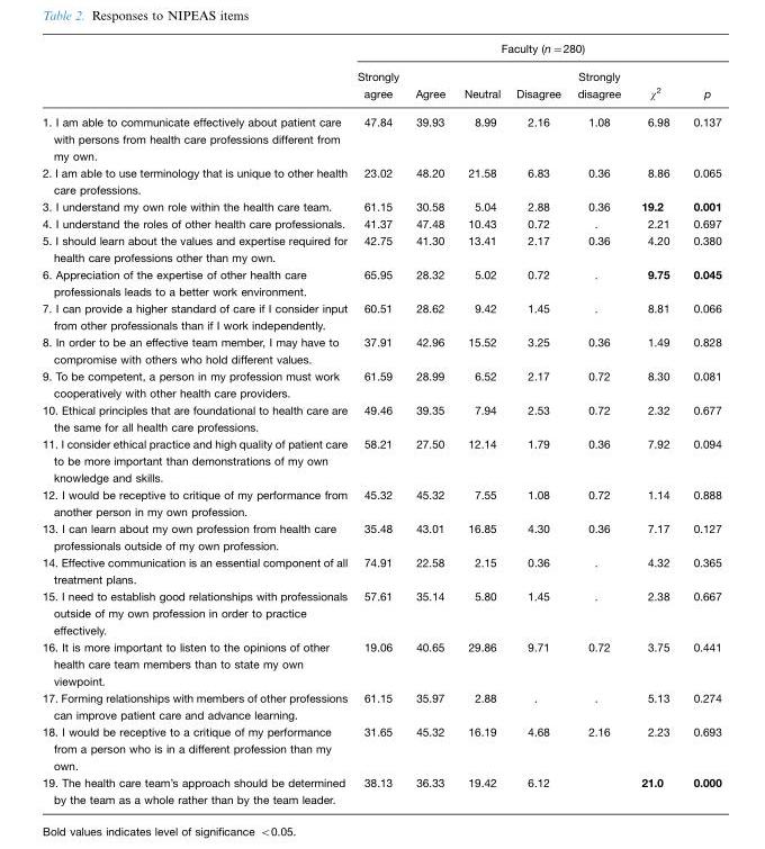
<table><thead><tr><td rowspan="2"></td><td colspan="7">Faculty (n=280)</td></tr><tr><td>Strongly agree</td><td>Agree</td><td>Neutral</td><td>Disagree</td><td>Strongly disagree</td><td>χ<sup>2</sup></td><td>p</td></tr></thead><tbody><tr><td>1. I am able to communicate effectively about patient care with persons from health care professions different from my own.</td><td>47.84</td><td>39.93</td><td>8.99</td><td>2.16</td><td>1.08</td><td>6.98</td><td>0.137</td></tr><tr><td>2. I am able to use terminology that is unique to other health care professions.</td><td>23.02</td><td>48.20</td><td>21.58</td><td>6.83</td><td>0.36</td><td>8.86</td><td>0.065</td></tr><tr><td>3. I understand my own role within the health care team.</td><td>61.15</td><td>30.58</td><td>5.04</td><td>2.88</td><td>0.36</td><td>19.2</td><td>0.001</td></tr><tr><td>4. I understand the roles of other health care professionals.</td><td>41.37</td><td>47.48</td><td>10.43</td><td>0.72</td><td>.</td><td>2.21</td><td>0.697</td></tr><tr><td>5. I should learn about the values and expertise required for health care professions other than my own.</td><td>42.75</td><td>41.30</td><td>13.41</td><td>2.17</td><td>0.36</td><td>4.20</td><td>0.380</td></tr><tr><td>6. Appreciation of the expertise of other health care professionals leads to a better work environment.</td><td>65.95</td><td>28.32</td><td>5.02</td><td>0.72</td><td>.</td><td>9.75</td><td>0.045</td></tr><tr><td>7. I can provide a higher standard of care if I consider input from other professionals than if I work independently.</td><td>60.51</td><td>28.62</td><td>9.42</td><td>1.45</td><td>.</td><td>8.81</td><td>0.066</td></tr><tr><td>8. In order to be an effective team member, I may have to compromise with others who hold different values.</td><td>37.91</td><td>42.96</td><td>15.52</td><td>3.25</td><td>0.36</td><td>1.49</td><td>0.828</td></tr><tr><td>9. To be competent, a person in my profession must work cooperatively with other health care providers.</td><td>61.59</td><td>28.99</td><td>6.52</td><td>2.17</td><td>0.72</td><td>8.30</td><td>0.081</td></tr><tr><td>10. Ethical principles that are foundational to health care are the same for all health care professions.</td><td>49.46</td><td>39.35</td><td>7.94</td><td>2.53</td><td>0.72</td><td>2.32</td><td>0.677</td></tr><tr><td>11. I consider ethical practice and high quality of patient care to be more important than demonstrations of my own knowledge and skills.</td><td>58.21</td><td>27.50</td><td>12.14</td><td>1.79</td><td>0.36</td><td>7.92</td><td>0.094</td></tr><tr><td>12. I would be receptive to critique of my performance from another person in my own profession.</td><td>45.32</td><td>45.32</td><td>7.55</td><td>1.08</td><td>0.72</td><td>1.14</td><td>0.888</td></tr><tr><td>13. I can learn about my own profession from health care professionals outside of my own profession.</td><td>35.48</td><td>43.01</td><td>16.85</td><td>4.30</td><td>0.36</td><td>7.17</td><td>0.127</td></tr><tr><td>14. Effective communication is an essential component of all treatment plans.</td><td>74.91</td><td>22.58</td><td>2.15</td><td>0.36</td><td>.</td><td>4.32</td><td>0.365</td></tr><tr><td>15. I need to establish good relationships with professionals outside of my own profession in order to practice effectively.</td><td>57.61</td><td>35.14</td><td>5.80</td><td>1.45</td><td>.</td><td>2.38</td><td>0.667</td></tr><tr><td>16. It is more important to listen to the opinions of other health care team members than to state my own viewpoint.</td><td>19.06</td><td>40.65</td><td>29.86</td><td>9.71</td><td>0.72</td><td>3.75</td><td>0.441</td></tr><tr><td>17. Forming relationships with members of other professions can improve patient care and advance learning.</td><td>61.15</td><td>35.97</td><td>2.88</td><td>.</td><td>.</td><td>5.13</td><td>0.274</td></tr><tr><td>18. I would be receptive to a critique of my performance from a person who is in a different profession than my own.</td><td>31.65</td><td>45.32</td><td>16.19</td><td>4.68</td><td>2.16</td><td>2.23</td><td>0.693</td></tr><tr><td>19. The health care team’s approach should be determined by the team as a whole rather than by the team leader.</td><td>38.13</td><td>36.33</td><td>19.42</td><td>6.12</td><td></td><td>21.0</td><td>0.000</td></tr></tbody></table>